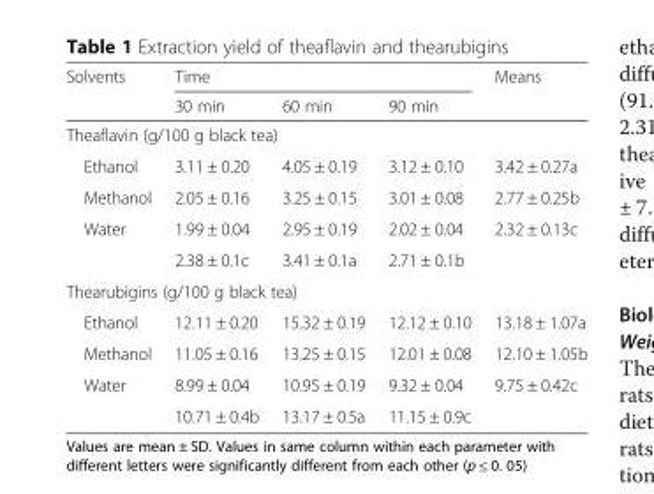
<table><thead><tr><td rowspan="2">Solvents</td><td colspan="3">Time</td><td rowspan="2">Means</td></tr><tr><td>30 min</td><td>60 min</td><td>90 min</td></tr></thead><tbody><tr><td colspan="5">Theaflavin (g/100 g black tea)</td></tr><tr><td>Ethanol</td><td>3.11 ± 0.20</td><td>4.05 ± 0.19</td><td>3.12 ± 0.10</td><td>3.42 ± 0.27a</td></tr><tr><td>Methanol</td><td>2.05 ± 0.16</td><td>3.25 ± 0.15</td><td>3.01 ± 0.08</td><td>2.77 ± 0.25b</td></tr><tr><td rowspan="2">Water</td><td>1.99 ± 0.04</td><td>2.95 ± 0.19</td><td>2.02 ± 0.04</td><td>2.32 ± 0.13c</td></tr><tr><td>2.38 ± 0.1c</td><td>3.41 ± 0.1a</td><td>2.71 ± 0.1b</td><td></td></tr><tr><td colspan="5">Thearubigins (g/100 g black tea)</td></tr><tr><td>Ethanol</td><td>12.11 ± 0.20</td><td>15.32 ± 0.19</td><td>12.12 ± 0.10</td><td>13.18 ± 1.07a</td></tr><tr><td>Methanol</td><td>11.05 ± 0.16</td><td>13.25 ± 0.15</td><td>12.01 ± 0.08</td><td>12.10 ± 1.05b</td></tr><tr><td rowspan="2">Water</td><td>8.99 ± 0.04</td><td>10.95 ± 0.19</td><td>9.32 ± 0.04</td><td>9.75 ± 0.42c</td></tr><tr><td>10.71 ± 0.4b</td><td>13.17 ± 0.5a</td><td>11.15 ± 0.9c</td><td></td></tr></tbody></table>